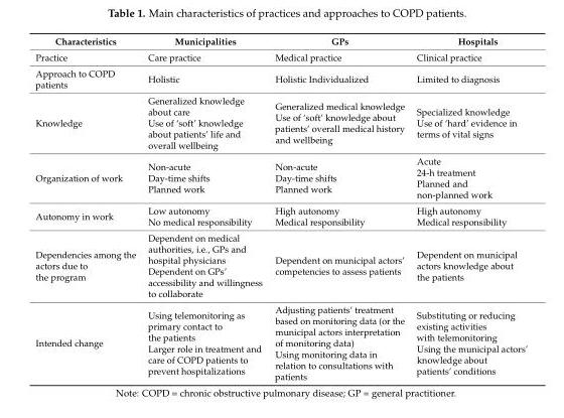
<table><thead><tr><td>Characteristics</td><td>Municipalities</td><td>GPs</td><td>Hospitals</td></tr></thead><tbody><tr><td>Practice</td><td>Care practice</td><td>Medical practice</td><td>Clinical practice</td></tr><tr><td>Approach to COPD patients</td><td>Holistic</td><td>Holistic Individualized</td><td>Limited to diagnosis</td></tr><tr><td>Knowledge</td><td>Generalized knowledge about care Use of ‘soft’ knowledge about patients’ life and overall wellbeing</td><td>Generalized medical knowledge Use of ‘soft’ knowledge about patients’ overall medical history and wellbeing</td><td>Specialized knowledge Use of ‘hard’ evidence in terms of vital signs</td></tr><tr><td>Organization of work</td><td>Non-acute Day-time shifts Planned work</td><td>Non-acute Day-time shifts Planned work</td><td>Acute 24-h treatment Planned and non-planned work</td></tr><tr><td>Autonomy in work</td><td>Low autonomy No medical responsibility</td><td>High autonomy Medical responsibility</td><td>High autonomy Medical responsibility</td></tr><tr><td>Dependencies among the actors due to the program</td><td>Dependent on medical authorities, i.e., GPs and hospital physicians Dependent on GPs’ accessibility and willingness to collaborate</td><td>Dependent on municipal actors’ competencies to assess patients</td><td>Dependent on municipal actors knowledge about the patients</td></tr><tr><td>Intended change</td><td>Using telemonitoring as primary contact to the patients Larger role in treatment and care of COPD patients to prevent hospitalizations</td><td>Adjusting patients’ treatment based on monitoring data (or the municipal actors interpretation of monitoring data) Using monitoring data in relation to consultations with patients</td><td>Substituting or reducing existing activities with telemonitoring Using the municipal actors’ knowledge about patients’ conditions</td></tr></tbody></table>